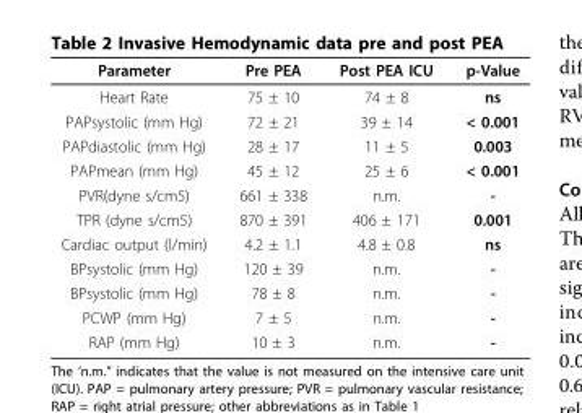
<table><thead><tr><td>Parameter</td><td>Pre PEA</td><td>Post PEA ICU</td><td>p-Value</td></tr></thead><tbody><tr><td>Heart Rate</td><td>75 ± 10</td><td>74 ± 8</td><td>ns</td></tr><tr><td>PAPsystolic (mm Hg)</td><td>72 ± 21</td><td>39 ± 14</td><td>&lt; 0.001</td></tr><tr><td>PAPdiastolic (mm Hg)</td><td>28 ± 17</td><td>11 ± 5</td><td>0.003</td></tr><tr><td>PAPmean (mm Hg)</td><td>45 ± 12</td><td>25 ± 6</td><td>&lt; 0.001</td></tr><tr><td>PVR(dyne s/cm5)</td><td>661 ± 338</td><td>n.m.</td><td>-</td></tr><tr><td>TPR (dyne s/cm5)</td><td>870 ± 391</td><td>406 ± 171</td><td>0.001</td></tr><tr><td>Cardiac output (l/min)</td><td>4.2 ± 1.1</td><td>4.8 ± 0.8</td><td>ns</td></tr><tr><td>BPsystolic (mm Hg)</td><td>120 ± 39</td><td>n.m.</td><td>-</td></tr><tr><td>BPsystolic (mm Hg)</td><td>78 ± 8</td><td>n.m.</td><td>-</td></tr><tr><td>PCWP (mm Hg)</td><td>7 ± 5</td><td>n.m.</td><td>-</td></tr><tr><td>RAP (mm Hg)</td><td>10 ± 3</td><td>n.m.</td><td>-</td></tr></tbody></table>